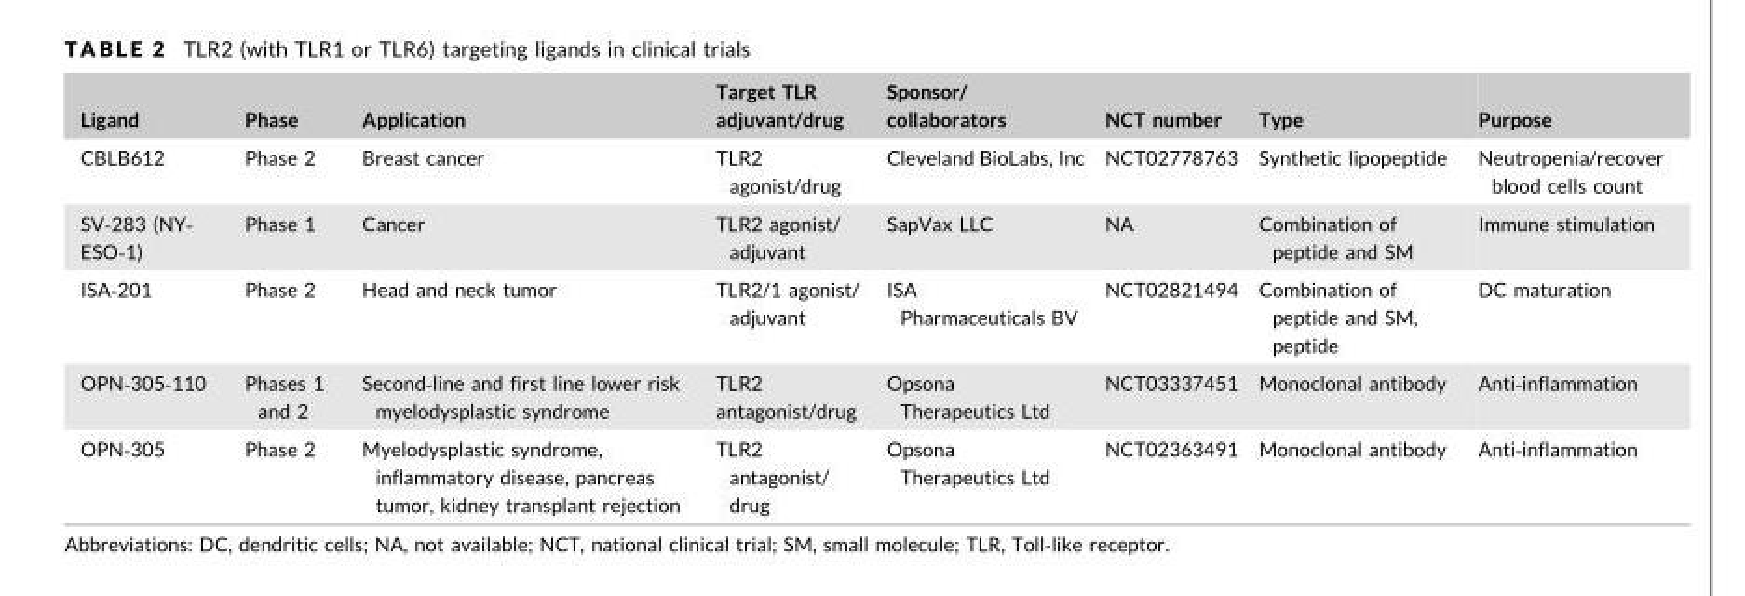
<table><thead><tr><td>Ligand</td><td>Phase</td><td>Application</td><td>Target TLR adjuvant/drug</td><td>Sponsor/ collaborators</td><td>NCT number</td><td>Type</td><td>Purpose</td></tr></thead><tbody><tr><td>CBLB612</td><td>Phase 2</td><td>Breast cancer</td><td>TLR2 agonist/drug</td><td>Cleveland BioLabs, Inc</td><td>NCT02778763</td><td>Synthetic lipopeptide</td><td>Neutropenia/recover blood cells count</td></tr><tr><td>SV‐283 (NY‐ ESO‐1)</td><td>Phase 1</td><td>Cancer</td><td>TLR2 agonist/ adjuvant</td><td>SapVax LLC</td><td>NA</td><td>Combination of peptide and SM</td><td>Immune stimulation</td></tr><tr><td>ISA‐201</td><td>Phase 2</td><td>Head and neck tumor</td><td>TLR2/1 agonist/ adjuvant</td><td>ISA Pharmaceuticals BV</td><td>NCT02821494</td><td>Combination of peptide and SM, peptide</td><td>DC maturation</td></tr><tr><td>OPN‐305‐110</td><td>Phases 1 and 2</td><td>Second‐line and first line lower risk myelodysplastic syndrome</td><td>TLR2 antagonist/drug</td><td>Opsona Therapeutics Ltd</td><td>NCT03337451</td><td>Monoclonal antibody</td><td>Anti‐inflammation</td></tr><tr><td>OPN‐305</td><td>Phase 2</td><td>Myelodysplastic syndrome, inflammatory disease, pancreas tumor, kidney transplant rejection</td><td>TLR2 antagonist/ drug</td><td>Opsona Therapeutics Ltd</td><td>NCT02363491</td><td>Monoclonal antibody</td><td>Anti‐inflammation</td></tr></tbody></table>